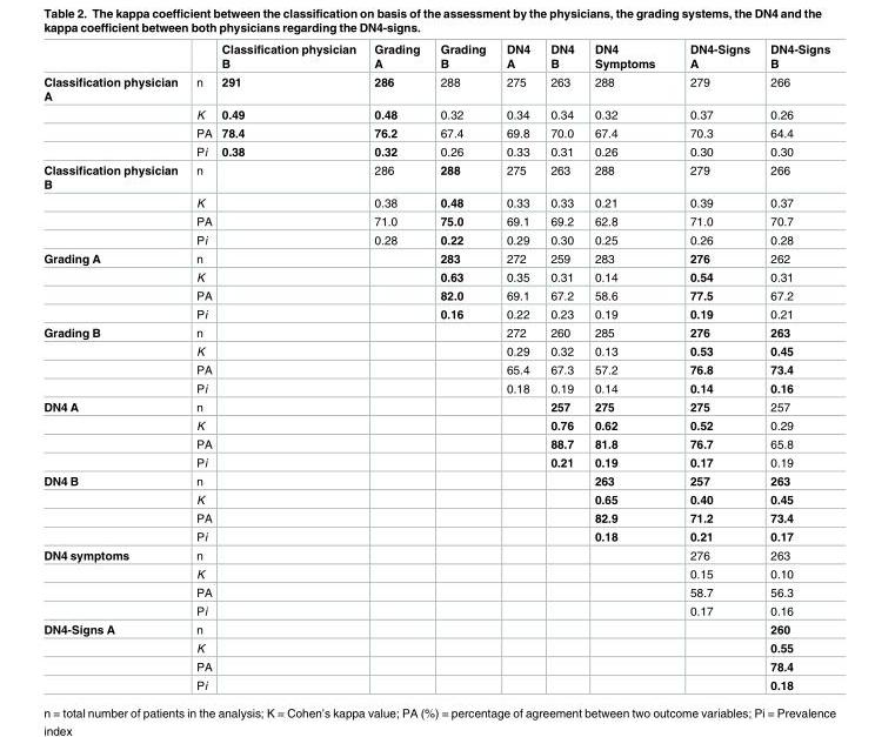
<table><thead><tr><td></td><td></td><td>Classification physician B</td><td>Grading A</td><td>Grading B</td><td>DN4 A</td><td>DN4 B</td><td>DN4 Symptoms</td><td>DN4-Signs A</td><td>DN4-Signs B</td></tr></thead><tbody><tr><td rowspan="4">Classification physician A</td><td>n</td><td>291</td><td>286</td><td>288</td><td>275</td><td>263</td><td>288</td><td>279</td><td>266</td></tr><tr><td>K</td><td>0.49</td><td>0.48</td><td>0.32</td><td>0.34</td><td>0.34</td><td>0.32</td><td>0.37</td><td>0.26</td></tr><tr><td>PA</td><td>78.4</td><td>76.2</td><td>67.4</td><td>69.8</td><td>70.0</td><td>67.4</td><td>70.3</td><td>64.4</td></tr><tr><td>Pi</td><td>0.38</td><td>0.32</td><td>0.26</td><td>0.33</td><td>0.31</td><td>0.26</td><td>0.30</td><td>0.30</td></tr><tr><td rowspan="4">Classification physician B</td><td>n</td><td></td><td>286</td><td>288</td><td>275</td><td>263</td><td>288</td><td>279</td><td>266</td></tr><tr><td>K</td><td></td><td>0.38</td><td>0.48</td><td>0.33</td><td>0.33</td><td>0.21</td><td>0.39</td><td>0.37</td></tr><tr><td>PA</td><td></td><td>71.0</td><td>75.0</td><td>69.1</td><td>69.2</td><td>62.8</td><td>71.0</td><td>70.7</td></tr><tr><td>Pi</td><td></td><td>0.28</td><td>0.22</td><td>0.29</td><td>0.30</td><td>0.25</td><td>0.26</td><td>0.28</td></tr><tr><td rowspan="4">Grading A</td><td>n</td><td></td><td></td><td>283</td><td>272</td><td>259</td><td>283</td><td>276</td><td>262</td></tr><tr><td>K</td><td></td><td></td><td>0.63</td><td>0.35</td><td>0.31</td><td>0.14</td><td>0.54</td><td>0.31</td></tr><tr><td>PA</td><td></td><td></td><td>82.0</td><td>69.1</td><td>67.2</td><td>58.6</td><td>77.5</td><td>67.2</td></tr><tr><td>Pi</td><td></td><td></td><td>0.16</td><td>0.22</td><td>0.23</td><td>0.19</td><td>0.19</td><td>0.21</td></tr><tr><td rowspan="4">Grading B</td><td>n</td><td></td><td></td><td></td><td>272</td><td>260</td><td>285</td><td>276</td><td>263</td></tr><tr><td>K</td><td></td><td></td><td></td><td>0.29</td><td>0.32</td><td>0.13</td><td>0.53</td><td>0.45</td></tr><tr><td>PA</td><td></td><td></td><td></td><td>65.4</td><td>67.3</td><td>57.2</td><td>76.8</td><td>73.4</td></tr><tr><td>Pi</td><td></td><td></td><td></td><td>0.18</td><td>0.19</td><td>0.14</td><td>0.14</td><td>0.16</td></tr><tr><td rowspan="4">DN4 A</td><td>n</td><td></td><td></td><td></td><td></td><td>257</td><td>275</td><td>275</td><td>257</td></tr><tr><td>K</td><td></td><td></td><td></td><td></td><td>0.76</td><td>0.62</td><td>0.52</td><td>0.29</td></tr><tr><td>PA</td><td></td><td></td><td></td><td></td><td>88.7</td><td>81.8</td><td>76.7</td><td>65.8</td></tr><tr><td>Pi</td><td></td><td></td><td></td><td></td><td>0.21</td><td>0.19</td><td>0.17</td><td>0.19</td></tr><tr><td rowspan="4">DN4 B</td><td>n</td><td></td><td></td><td></td><td></td><td></td><td>263</td><td>257</td><td>263</td></tr><tr><td>K</td><td></td><td></td><td></td><td></td><td></td><td>0.65</td><td>0.40</td><td>0.45</td></tr><tr><td>PA</td><td></td><td></td><td></td><td></td><td></td><td>82.9</td><td>71.2</td><td>73.4</td></tr><tr><td>Pi</td><td></td><td></td><td></td><td></td><td></td><td>0.18</td><td>0.21</td><td>0.17</td></tr><tr><td rowspan="4">DN4 symptoms</td><td>n</td><td></td><td></td><td></td><td></td><td></td><td></td><td>276</td><td>263</td></tr><tr><td>K</td><td></td><td></td><td></td><td></td><td></td><td></td><td>0.15</td><td>0.10</td></tr><tr><td>PA</td><td></td><td></td><td></td><td></td><td></td><td></td><td>58.7</td><td>56.3</td></tr><tr><td>Pi</td><td></td><td></td><td></td><td></td><td></td><td></td><td>0.17</td><td>0.16</td></tr><tr><td rowspan="4">DN4-Signs A</td><td>n</td><td></td><td></td><td></td><td></td><td></td><td></td><td></td><td>260</td></tr><tr><td>K</td><td></td><td></td><td></td><td></td><td></td><td></td><td></td><td>0.55</td></tr><tr><td>PA</td><td></td><td></td><td></td><td></td><td></td><td></td><td></td><td>78.4</td></tr><tr><td>Pi</td><td></td><td></td><td></td><td></td><td></td><td></td><td></td><td>0.18</td></tr></tbody></table>